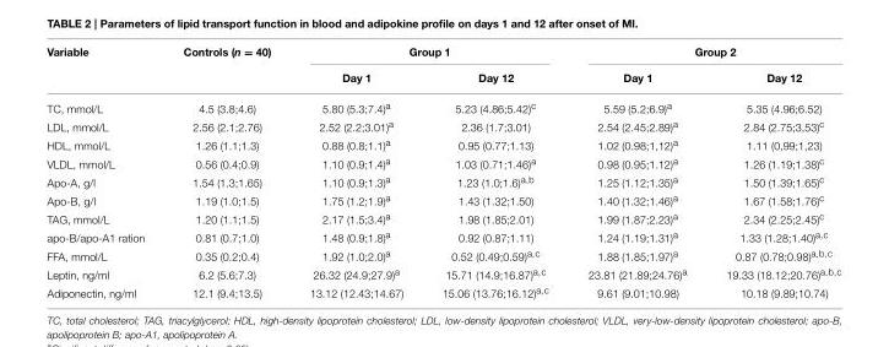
<table><thead><tr><td rowspan="2">Variable</td><td rowspan="2">Controls (n = 40)</td><td colspan="2">Group 1</td><td colspan="2">Group 2</td></tr><tr><td>Day 1</td><td>Day 12</td><td>Day 1</td><td>Day 12</td></tr></thead><tbody><tr><td>TC, mmol/L</td><td>4.5 (3.8;4.6)</td><td>5.80 (5.3;7.4)<sup>a</sup></td><td>5.23 (4.86;5.42)<sup>c</sup></td><td>5.59 (5.2;6.9)<sup>a</sup></td><td>5.35 (4.96;6.52)</td></tr><tr><td>LDL, mmol/L</td><td>2.56 (2.1;2.76)</td><td>2.52 (2.2;3.01)<sup>a</sup></td><td>2.36 (1.7;3.01)</td><td>2.54 (2.45;2.89)<sup>a</sup></td><td>2.84 (2.75;3,53)<sup>c</sup></td></tr><tr><td>HDL, mmol/L</td><td>1.26 (1.1;1.3)</td><td>0.88 (0.8;1.1)<sup>a</sup></td><td>0.95 (0.77;1.13)</td><td>1.02 (0.98;1,12)<sup>a</sup></td><td>1.11 (0,99;1,23)</td></tr><tr><td>VLDL, mmol/L</td><td>0.56 (0.4;0.9)</td><td>1.10 (0.9;1.4)<sup>a</sup></td><td>1.03 (0.71;1.46)<sup>a</sup></td><td>0.98 (0.95;1.12)<sup>a</sup></td><td>1.26 (1.19;1.38)<sup>c</sup></td></tr><tr><td>Apo-A, g/l</td><td>1.54 (1.3;1.65)</td><td>1.10 (0.9;1.3)<sup>a</sup></td><td>1.23 (1.0;1.6)<sup>a,b</sup></td><td>1.25 (1.12;1.35)<sup>a</sup></td><td>1.50 (1.39;1.65)<sup>c</sup></td></tr><tr><td>Apo-B, g/l</td><td>1.19 (1.0;1.5)</td><td>1.75 (1.2;1.9)<sup>a</sup></td><td>1.43 (1.32;1.50)</td><td>1.40 (1.32;1.46)<sup>a</sup></td><td>1.67 (1.58;1.76)<sup>c</sup></td></tr><tr><td>TAG, mmol/L</td><td>1.20 (1.1;1.5)</td><td>2.17 (1.5;3.4)<sup>a</sup></td><td>1.98 (1.85;2.01)</td><td>1.99 (1.87;2.23)<sup>a</sup></td><td>2.34 (2.25;2.45)<sup>c</sup></td></tr><tr><td>apo-B/apo-A1 ration</td><td>0.81 (0.7;1.0)</td><td>1.48 (0.9;1.8)<sup>a</sup></td><td>0.92 (0.87;1.11)</td><td>1.24 (1.19;1.31)<sup>a</sup></td><td>1.33 (1.28;1.40)<sup>a,c</sup></td></tr><tr><td>FFA, mmol/L</td><td>0.35 (0.2;0.4)</td><td>1.92 (1.0;2.0)<sup>a</sup></td><td>0.52 (0.49;0.59)<sup>a,c</sup></td><td>1.88 (1.85;1.97)<sup>a</sup></td><td>0.87 (0.78;0.98)<sup>a,b,c</sup></td></tr><tr><td>Leptin, ng/ml</td><td>6.2 (5.6;7.3)</td><td>26.32 (24.9;27.9)<sup>a</sup></td><td>15.71 (14.9;16.87)<sup>a,c</sup></td><td>23.81 (21.89;24.76)<sup>a</sup></td><td>19.33 (18.12;20.76)<sup>a,b,c</sup></td></tr><tr><td>Adiponectin, ng/ml</td><td>12.1 (9.4;13.5)</td><td>13.12 (12.43;14.67)</td><td>15.06 (13.76;16.12)<sup>a,c</sup></td><td>9.61 (9.01;10.98)</td><td>10.18 (9.89;10.74)</td></tr></tbody></table>